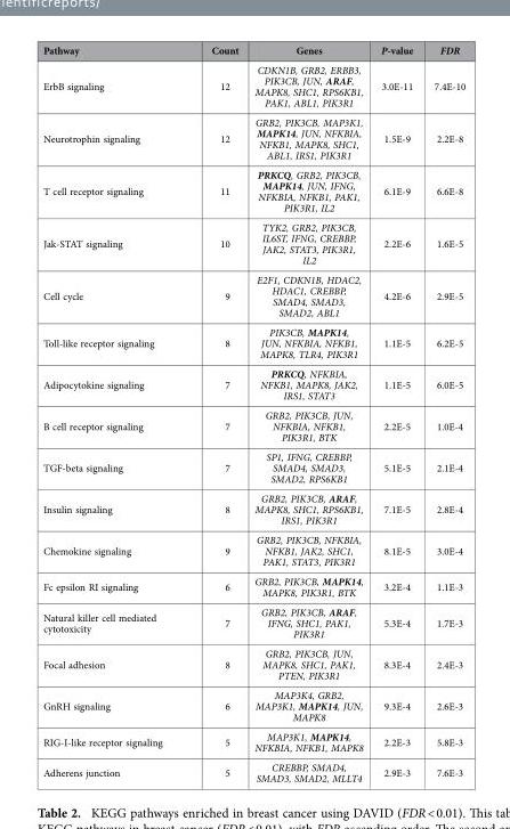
<table><thead><tr><td>Pathway</td><td>Count</td><td>Genes</td><td>P-value</td><td>FDR</td></tr></thead><tbody><tr><td>ErbB signaling</td><td>12</td><td>CDKN1B, GRB2, ERBB3, PIK3CB, JUN, ARAF, MAPK8, SHC1, RPS6KB1, PAK1, ABL1, PIK3R1</td><td>3.0E-11</td><td>7.4E-10</td></tr><tr><td>Neurotrophin signaling</td><td>12</td><td>GRB2, PIK3CB, MAP3K1, MAPK14, JUN, NFKBIA, NFKB1, MAPK8, SHC1, ABL1, IRS1, PIK3R1</td><td>1.5E-9</td><td>2.2E-8</td></tr><tr><td>T cell receptor signaling</td><td>11</td><td>PRKCQ, GRB2, PIK3CB, MAPK14, JUN, IFNG, NFKBIA, NFKB1, PAK1, PIK3R1, IL2</td><td>6.1E-9</td><td>6.6E-8</td></tr><tr><td>Jak-STAT signaling</td><td>10</td><td>TYK2, GRB2, PIK3CB, IL6ST, IFNG, CREBBP, JAK2, STAT3, PIK3R1, IL2</td><td>2.2E-6</td><td>1.6E-5</td></tr><tr><td>Cell cycle</td><td>9</td><td>E2F1, CDKN1B, HDAC2, HDAC1, CREBBP, SMAD4, SMAD3, SMAD2, ABL1</td><td>4.2E-6</td><td>2.9E-5</td></tr><tr><td>Toll-like receptor signaling</td><td>8</td><td>PIK3CB, MAPK14, JUN, NFKBIA, NFKB1, MAPK8, TLR4, PIK3R1</td><td>1.1E-5</td><td>6.2E-5</td></tr><tr><td>Adipocytokine signaling</td><td>7</td><td>PRKCQ, NFKBIA, NFKB1, MAPK8, JAK2, IRS1, STAT3</td><td>1.1E-5</td><td>6.0E-5</td></tr><tr><td>B cell receptor signaling</td><td>7</td><td>GRB2, PIK3CB, JUN, NFKBIA, NFKB1, PIK3R1, BTK</td><td>2.2E-5</td><td>1.0E-4</td></tr><tr><td>TGF-beta signaling</td><td>7</td><td>SP1, IFNG, CREBBP, SMAD4, SMAD3, SMAD2, RPS6KB1</td><td>5.1E-5</td><td>2.1E-4</td></tr><tr><td>Insulin signaling</td><td>8</td><td>GRB2, PIK3CB, ARAF, MAPK8, SHC1, RPS6KB1, IRS1, PIK3R1</td><td>7.1E-5</td><td>2.8E-4</td></tr><tr><td>Chemokine signaling</td><td>9</td><td>GRB2, PIK3CB, NFKBIA, NFKB1, JAK2, SHC1, PAK1, STAT3, PIK3R1</td><td>8.1E-5</td><td>3.0E-4</td></tr><tr><td>Fc epsilon RI signaling</td><td>6</td><td>GRB2, PIK3CB, MAPK14, MAPK8, PIK3R1, BTK</td><td>3.2E-4</td><td>1.1E-3</td></tr><tr><td>Natural killer cell mediated cytotoxicity</td><td>7</td><td>GRB2, PIK3CB, ARAF, IFNG, SHC1, PAK1, PIK3R1</td><td>5.3E-4</td><td>1.7E-3</td></tr><tr><td>Focal adhesion</td><td>8</td><td>GRB2, PIK3CB, JUN, MAPK8, SHC1, PAK1, PTEN, PIK3R1</td><td>8.3E-4</td><td>2.4E-3</td></tr><tr><td>GnRH signaling</td><td>6</td><td>MAP3K4, GRB2, MAP3K1, MAPK14, JUN, MAPK8</td><td>9.3E-4</td><td>2.6E-3</td></tr><tr><td>RIG-I-like receptor signaling</td><td>5</td><td>MAP3K1, MAPK14, NFKBIA, NFKB1, MAPK8</td><td>2.2E-3</td><td>5.8E-3</td></tr><tr><td>Adherens junction</td><td>5</td><td>CREBBP, SMAD4, SMAD3, SMAD2, MLLT4</td><td>2.9E-3</td><td>7.6E-3</td></tr></tbody></table>